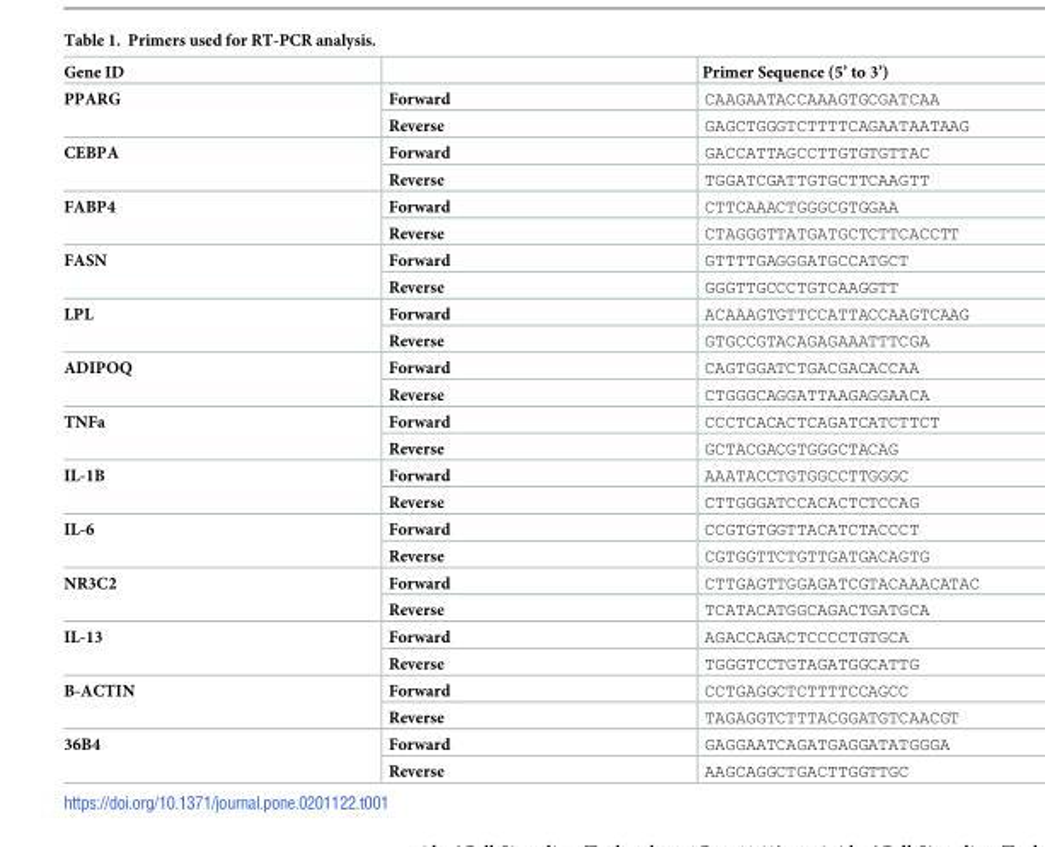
<table><thead><tr><td>Gene ID</td><td></td><td>Primer Sequence (5’ to 3’)</td></tr></thead><tbody><tr><td rowspan="2">PPARG</td><td>Forward</td><td>CAAGAATACCAAAGTGCGATCAA</td></tr><tr><td>Reverse</td><td>GAGCTGGGTCTTTTCAGAATAATAAG</td></tr><tr><td rowspan="2">CEBPA</td><td>Forward</td><td>GACCATTAGCCTTGTGTGTTAC</td></tr><tr><td>Reverse</td><td>TGGATCGATTGTGCTTCAAGTT</td></tr><tr><td rowspan="2">FABP4</td><td>Forward</td><td>CTTCAAACTGGGCGTGGAA</td></tr><tr><td>Reverse</td><td>CTAGGGTTATGATGCTCTTCACCTT</td></tr><tr><td rowspan="2">FASN</td><td>Forward</td><td>GTTTTGAGGGATGCCATGCT</td></tr><tr><td>Reverse</td><td>GGGTTGCCCTGTCAAGGTT</td></tr><tr><td rowspan="2">LPL</td><td>Forward</td><td>ACAAAGTGTTCCATTACCAAGTCAAG</td></tr><tr><td>Reverse</td><td>GTGCCGTACAGAGAAATTTCGA</td></tr><tr><td rowspan="2">ADIPOQ</td><td>Forward</td><td>CAGTGGATCTGACGACACCAA</td></tr><tr><td>Reverse</td><td>CTGGGCAGGATTAAGAGGAACA</td></tr><tr><td rowspan="2">TNFa</td><td>Forward</td><td>CCCTCACACTCAGATCATCTTCT</td></tr><tr><td>Reverse</td><td>GCTACGACGTGGGCTACAG</td></tr><tr><td rowspan="2">IL-1B</td><td>Forward</td><td>AAATACCTGTGGCCTTGGGC</td></tr><tr><td>Reverse</td><td>CTTGGGATCCACACTCTCCAG</td></tr><tr><td rowspan="2">IL-6</td><td>Forward</td><td>CCGTGTGGTTACATCTACCCT</td></tr><tr><td>Reverse</td><td>CGTGGTTCTGTTGATGACAGTG</td></tr><tr><td rowspan="2">NR3C2</td><td>Forward</td><td>CTTGAGTTGGAGATCGTACAAACATAC</td></tr><tr><td>Reverse</td><td>TCATACATGGCAGACTGATGCA</td></tr><tr><td rowspan="2">IL-13</td><td>Forward</td><td>AGACCAGACTCCCCTGTGCA</td></tr><tr><td>Reverse</td><td>TGGGTCCTGTAGATGGCATTG</td></tr><tr><td rowspan="2">B-ACTIN</td><td>Forward</td><td>CCTGAGGCTCTTTTCCAGCC</td></tr><tr><td>Reverse</td><td>TAGAGGTCTTTACGGATGTCAACGT</td></tr><tr><td rowspan="2">36B4</td><td>Forward</td><td>GAGGAATCAGATGAGGATATGGGA</td></tr><tr><td>Reverse</td><td>AAGCAGGCTGACTTGGTTGC</td></tr></tbody></table>